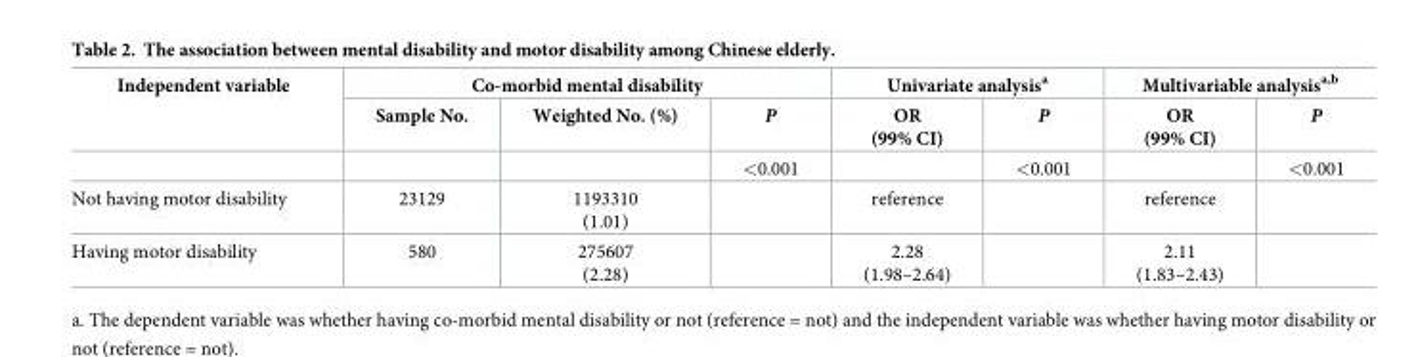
<table><thead><tr><td rowspan="2">Independent variable</td><td colspan="3">Co-morbid mental disability</td><td colspan="2">Univariate analysis<sup>a</sup></td><td colspan="2">Multivariable analysis<sup>a,b</sup></td></tr><tr><td>Sample No.</td><td>Weighted No. (%)</td><td>P</td><td>OR (99% CI)</td><td>P</td><td>OR (99% CI)</td><td>P</td></tr></thead><tbody><tr><td></td><td></td><td></td><td>&lt;0.001</td><td></td><td>&lt;0.001</td><td></td><td>&lt;0.001</td></tr><tr><td>Not having motor disability</td><td>23129</td><td>1193310 (1.01)</td><td></td><td>reference</td><td></td><td>reference</td><td></td></tr><tr><td>Having motor disability</td><td>580</td><td>275607 (2.28)</td><td></td><td>2.28 (1.98–2.64)</td><td></td><td>2.11 (1.83–2.43)</td><td></td></tr></tbody></table>